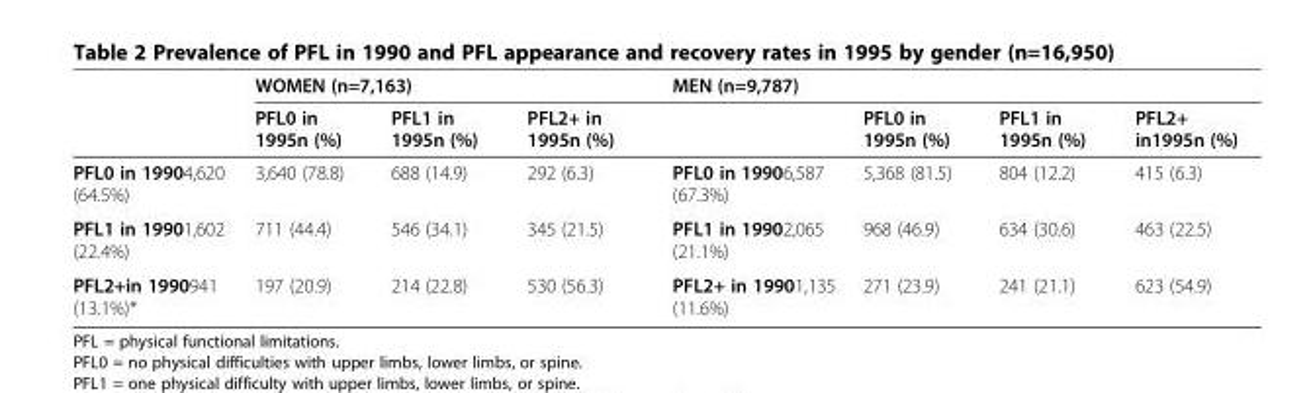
<table><thead><tr><td rowspan="2"></td><td colspan="3">WOMEN (n=7,163)</td><td colspan="4">MEN (n=9,787)</td></tr><tr><td>PFL0 in 1995n (%)</td><td>PFL1 in 1995n (%)</td><td>PFL2+ in 1995n (%)</td><td></td><td>PFL0 in 1995n (%)</td><td>PFL1 in 1995n (%)</td><td>PFL2+ in1995n (%)</td></tr></thead><tbody><tr><td>PFL0 in 19904,620 (64.5%)</td><td>3,640 (78.8)</td><td>688 (14.9)</td><td>292 (6.3)</td><td>PFL0 in 19906,587 (67.3%)</td><td>5,368 (81.5)</td><td>804 (12.2)</td><td>415 (6.3)</td></tr><tr><td>PFL1 in 19901,602 (22.4%)</td><td>711 (44.4)</td><td>546 (34.1)</td><td>345 (21.5)</td><td>PFL1 in 19902,065 (21.1%)</td><td>968 (46.9)</td><td>634 (30.6)</td><td>463 (22.5)</td></tr><tr><td>PFL2+in 1990941 (13.1%)*</td><td>197 (20.9)</td><td>214 (22.8)</td><td>530 (56.3)</td><td>PFL2+ in 19901,135 (11.6%)</td><td>271 (23.9)</td><td>241 (21.1)</td><td>623 (54.9)</td></tr></tbody></table>